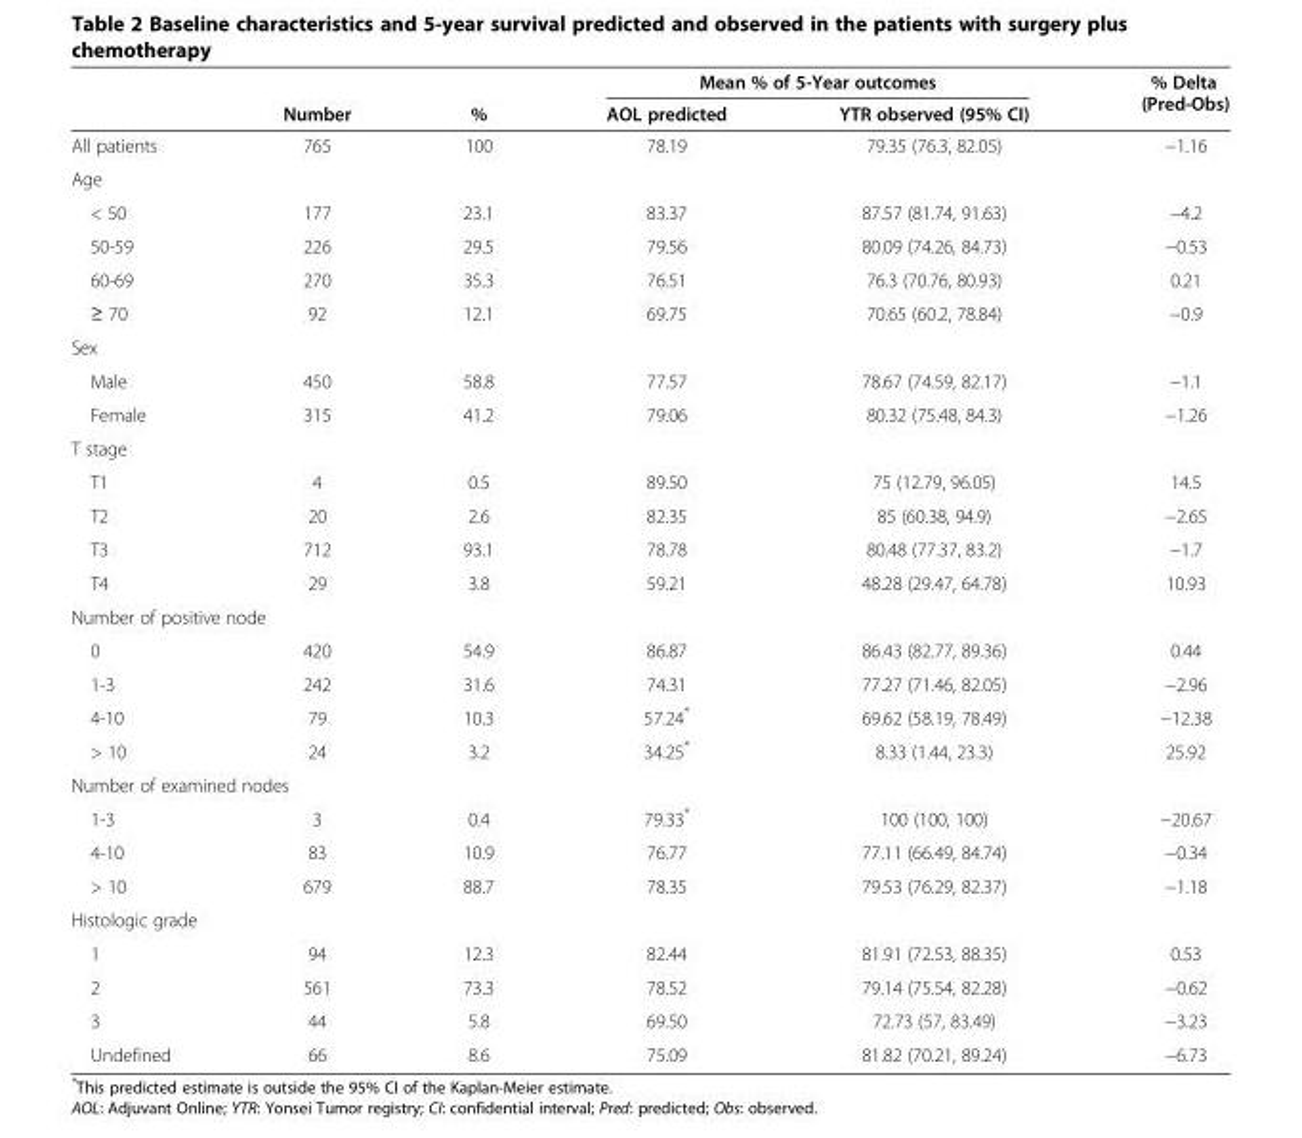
<table><thead><tr><td rowspan="2"></td><td rowspan="2">Number</td><td rowspan="2">%</td><td colspan="2">Mean % of 5-Year outcomes</td><td rowspan="2">% Delta (Pred-Obs)</td></tr><tr><td>AOL predicted</td><td>YTR observed (95% CI)</td></tr></thead><tbody><tr><td>All patients</td><td>765</td><td>100</td><td>78.19</td><td>79.35 (76.3, 82.05)</td><td>−1.16</td></tr><tr><td colspan="6">Age</td></tr><tr><td>&lt; 50</td><td>177</td><td>23.1</td><td>83.37</td><td>87.57 (81.74, 91.63)</td><td>−4.2</td></tr><tr><td>50-59</td><td>226</td><td>29.5</td><td>79.56</td><td>80.09 (74.26, 84.73)</td><td>−0.53</td></tr><tr><td>60-69</td><td>270</td><td>35.3</td><td>76.51</td><td>76.3 (70.76, 80.93)</td><td>0.21</td></tr><tr><td>≥ 70</td><td>92</td><td>12.1</td><td>69.75</td><td>70.65 (60.2, 78.84)</td><td>−0.9</td></tr><tr><td colspan="6">Sex</td></tr><tr><td>Male</td><td>450</td><td>58.8</td><td>77.57</td><td>78.67 (74.59, 82.17)</td><td>−1.1</td></tr><tr><td>Female</td><td>315</td><td>41.2</td><td>79.06</td><td>80.32 (75.48, 84.3)</td><td>−1.26</td></tr><tr><td colspan="6">T stage</td></tr><tr><td>T1</td><td>4</td><td>0.5</td><td>89.50</td><td>75 (12.79, 96.05)</td><td>14.5</td></tr><tr><td>T2</td><td>20</td><td>2.6</td><td>82.35</td><td>85 (60.38, 94.9)</td><td>−2.65</td></tr><tr><td>T3</td><td>712</td><td>93.1</td><td>78.78</td><td>80.48 (77.37, 83.2)</td><td>−1.7</td></tr><tr><td>T4</td><td>29</td><td>3.8</td><td>59.21</td><td>48.28 (29.47, 64.78)</td><td>10.93</td></tr><tr><td colspan="6">Number of positive node</td></tr><tr><td>0</td><td>420</td><td>54.9</td><td>86.87</td><td>86.43 (82.77, 89.36)</td><td>0.44</td></tr><tr><td>1-3</td><td>242</td><td>31.6</td><td>74.31</td><td>77.27 (71.46, 82.05)</td><td>−2.96</td></tr><tr><td>4-10</td><td>79</td><td>10.3</td><td>57.24*</td><td>69.62 (58.19, 78.49)</td><td>−12.38</td></tr><tr><td>&gt; 10</td><td>24</td><td>3.2</td><td>34.25*</td><td>8.33 (1.44, 23.3)</td><td>25.92</td></tr><tr><td colspan="6">Number of examined nodes</td></tr><tr><td>1-3</td><td>3</td><td>0.4</td><td>79.33*</td><td>100 (100, 100)</td><td>−20.67</td></tr><tr><td>4-10</td><td>83</td><td>10.9</td><td>76.77</td><td>77.11 (66.49, 84.74)</td><td>−0.34</td></tr><tr><td>&gt; 10</td><td>679</td><td>88.7</td><td>78.35</td><td>79.53 (76.29, 82.37)</td><td>−1.18</td></tr><tr><td colspan="6">Histologic grade</td></tr><tr><td>1</td><td>94</td><td>12.3</td><td>82.44</td><td>81.91 (72.53, 88.35)</td><td>0.53</td></tr><tr><td>2</td><td>561</td><td>73.3</td><td>78.52</td><td>79.14 (75.54, 82.28)</td><td>−0.62</td></tr><tr><td>3</td><td>44</td><td>5.8</td><td>69.50</td><td>72.73 (57, 83.49)</td><td>−3.23</td></tr><tr><td>Undefined</td><td>66</td><td>8.6</td><td>75.09</td><td>81.82 (70.21, 89.24)</td><td>−6.73</td></tr></tbody></table>